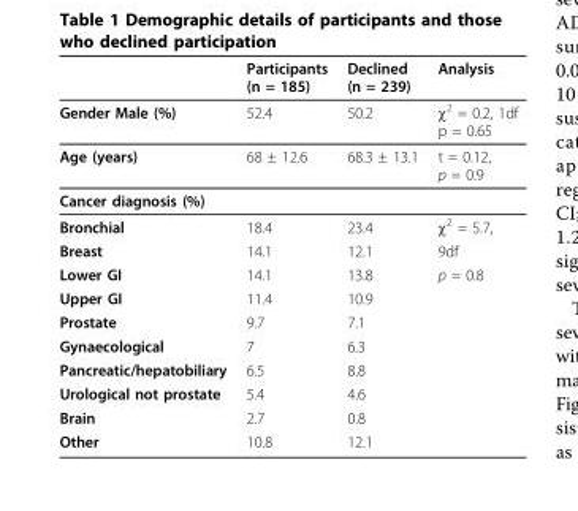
<table><thead><tr><td></td><td>Participants (n = 185)</td><td>Declined (n = 239)</td><td>Analysis</td></tr></thead><tbody><tr><td>Gender Male (%)</td><td>52.4</td><td>50.2</td><td>χ<sup>2</sup> = 0.2, 1df p = 0.65</td></tr><tr><td>Age (years)</td><td>68 ± 12.6</td><td>68.3 ± 13.1</td><td>t = 0.12, p = 0.9</td></tr><tr><td colspan="4">Cancer diagnosis (%)</td></tr><tr><td>Bronchial</td><td>18.4</td><td>23.4</td><td>χ<sup>2</sup> = 5.7,</td></tr><tr><td>Breast</td><td>14.1</td><td>12.1</td><td>9df</td></tr><tr><td>Lower GI</td><td>14.1</td><td>13.8</td><td>p = 0.8</td></tr><tr><td>Upper GI</td><td>11.4</td><td>10.9</td><td></td></tr><tr><td>Prostate</td><td>9.7</td><td>7.1</td><td></td></tr><tr><td>Gynaecological</td><td>7</td><td>6.3</td><td></td></tr><tr><td>Pancreatic/hepatobiliary</td><td>6.5</td><td>8.8</td><td></td></tr><tr><td>Urological not prostate</td><td>5.4</td><td>4.6</td><td></td></tr><tr><td>Brain</td><td>2.7</td><td>0.8</td><td></td></tr><tr><td>Other</td><td>10.8</td><td>12.1</td><td></td></tr></tbody></table>